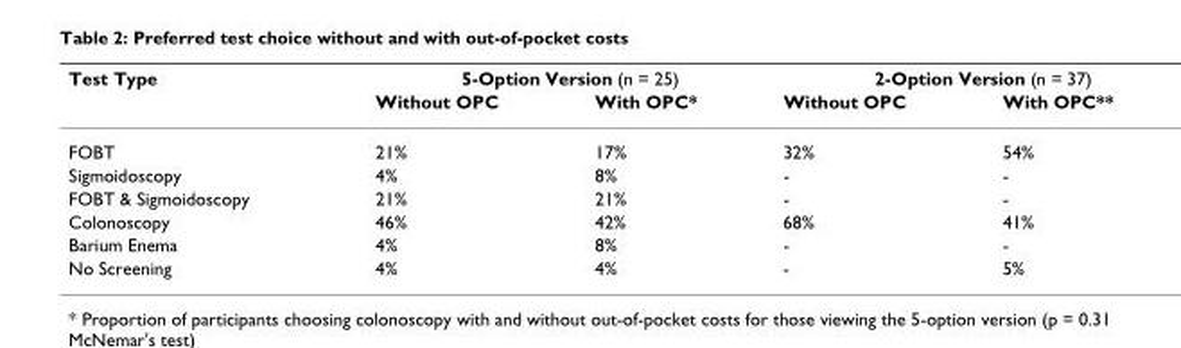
<table><thead><tr><td rowspan="2">Test Type</td><td colspan="2">5-Option Version (n = 25)</td><td colspan="2">2-Option Version (n = 37)</td></tr><tr><td>Without OPC</td><td>With OPC*</td><td>Without OPC</td><td>With OPC**</td></tr></thead><tbody><tr><td>FOBT</td><td>21%</td><td>17%</td><td>32%</td><td>54%</td></tr><tr><td>Sigmoidoscopy</td><td>4%</td><td>8%</td><td>-</td><td>-</td></tr><tr><td>FOBT &amp; Sigmoidoscopy</td><td>21%</td><td>21%</td><td>-</td><td>-</td></tr><tr><td>Colonoscopy</td><td>46%</td><td>42%</td><td>68%</td><td>41%</td></tr><tr><td>Barium Enema</td><td>4%</td><td>8%</td><td>-</td><td>-</td></tr><tr><td>No Screening</td><td>4%</td><td>4%</td><td>-</td><td>5%</td></tr></tbody></table>